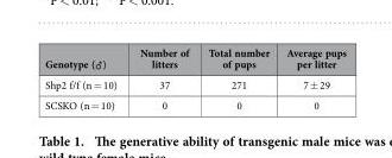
<table><thead><tr><td>Genotype (♂ )</td><td>Number of litters</td><td>Total number of pups</td><td>Average pups per litter</td></tr></thead><tbody><tr><td>Shp2 f/f (n = 10)</td><td>37</td><td>271</td><td>7 ± 29</td></tr><tr><td>SCSKO (n = 10)</td><td>0</td><td>0</td><td>0</td></tr></tbody></table>